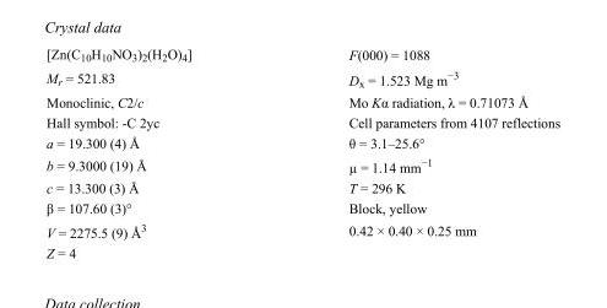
<table><tbody><tr><td>[Zn(C<sub>10</sub>H<sub>10</sub>NO<sub>3</sub>)<sub>2</sub>(H<sub>2</sub>O)<sub>4</sub>]</td><td>F(000) = 1088</td></tr><tr><td>M<sub>r</sub> = 521.83</td><td>D<sub>x</sub> = 1.523 Mg m<sup>−3</sup></td></tr><tr><td>Monoclinic, C2/c</td><td>Mo Kα radiation, λ = 0.71073 Å</td></tr><tr><td>Hall symbol: -C 2yc</td><td>Cell parameters from 4107 reflections</td></tr><tr><td>a = 19.300 (4) Å</td><td>θ = 3.1–25.6°</td></tr><tr><td>b = 9.3000 (19) Å</td><td>µ = 1.14 mm<sup>−1</sup></td></tr><tr><td>c = 13.300 (3) Å</td><td>T = 296 K</td></tr><tr><td>β = 107.60 (3)°</td><td>Block, yellow</td></tr><tr><td>V = 2275.5 (9) Å<sup>3</sup></td><td>0.42 × 0.40 × 0.25 mm</td></tr><tr><td>Z = 4</td><td></td></tr></tbody></table>